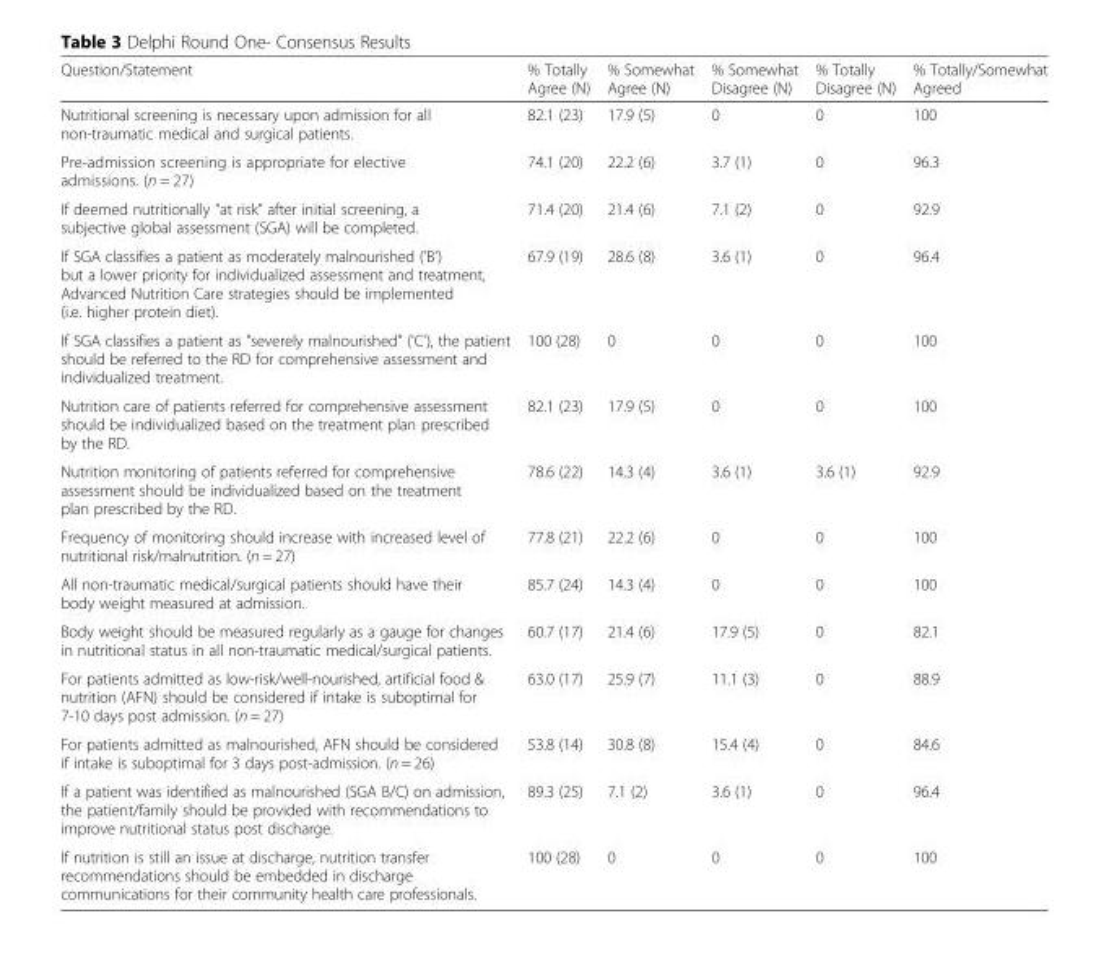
<table><thead><tr><td>Question/Statement</td><td>% Totally Agree (N)</td><td>% Somewhat Agree (N)</td><td>% Somewhat Disagree (N)</td><td>% Totally Disagree (N)</td><td>% Totally/Somewhat Agreed</td></tr></thead><tbody><tr><td>Nutritional screening is necessary upon admission for all non-traumatic medical and surgical patients.</td><td>82.1 (23)</td><td>17.9 (5)</td><td>0</td><td>0</td><td>100</td></tr><tr><td>Pre-admission screening is appropriate for elective admissions. (n = 27)</td><td>74.1 (20)</td><td>22.2 (6)</td><td>3.7 (1)</td><td>0</td><td>96.3</td></tr><tr><td>If deemed nutritionally “at risk” after initial screening, a subjective global assessment (SGA) will be completed.</td><td>71.4 (20)</td><td>21.4 (6)</td><td>7.1 (2)</td><td>0</td><td>92.9</td></tr><tr><td>If SGA classifies a patient as moderately malnourished (&#x27;B&#x27;) but a lower priority for individualized assessment and treatment, Advanced Nutrition Care strategies should be implemented (i.e. higher protein diet).</td><td>67.9 (19)</td><td>28.6 (8)</td><td>3.6 (1)</td><td>0</td><td>96.4</td></tr><tr><td>If SGA classifies a patient as &quot;severely malnourished&quot; (&#x27;C&#x27;), the patient should be referred to the RD for comprehensive assessment and individualized treatment.</td><td>100 (28)</td><td>0</td><td>0</td><td>0</td><td>100</td></tr><tr><td>Nutrition care of patients referred for comprehensive assessment should be individualized based on the treatment plan prescribed by the RD.</td><td>82.1 (23)</td><td>17.9 (5)</td><td>0</td><td>0</td><td>100</td></tr><tr><td>Nutrition monitoring of patients referred for comprehensive assessment should be individualized based on the treatment plan prescribed by the RD.</td><td>78.6 (22)</td><td>14.3 (4)</td><td>3.6 (1)</td><td>3.6 (1)</td><td>92.9</td></tr><tr><td>Frequency of monitoring should increase with increased level of nutritional risk/malnutrition. (n = 27)</td><td>77.8 (21)</td><td>22.2 (6)</td><td>0</td><td>0</td><td>100</td></tr><tr><td>All non-traumatic medical/surgical patients should have their body weight measured at admission.</td><td>85.7 (24)</td><td>14.3 (4)</td><td>0</td><td>0</td><td>100</td></tr><tr><td>Body weight should be measured regularly as a gauge for changes in nutritional status in all non-traumatic medical/surgical patients.</td><td>60.7 (17)</td><td>21.4 (6)</td><td>17.9 (5)</td><td>0</td><td>82.1</td></tr><tr><td>For patients admitted as low-risk/well-nourished, artificial food &amp; nutrition (AFN) should be considered if intake is suboptimal for 7-10 days post admission. (n = 27)</td><td>63.0 (17)</td><td>25.9 (7)</td><td>11.1 (3)</td><td>0</td><td>88.9</td></tr><tr><td>For patients admitted as malnourished, AFN should be considered if intake is suboptimal for 3 days post-admission. (n = 26)</td><td>53.8 (14)</td><td>30.8 (8)</td><td>15.4 (4)</td><td>0</td><td>84.6</td></tr><tr><td>If a patient was identified as malnourished (SGA B/C) on admission, the patient/family should be provided with recommendations to improve nutritional status post discharge.</td><td>89.3 (25)</td><td>7.1 (2)</td><td>3.6 (1)</td><td>0</td><td>96.4</td></tr><tr><td>If nutrition is still an issue at discharge, nutrition transfer recommendations should be embedded in discharge communications for their community health care professionals.</td><td>100 (28)</td><td>0</td><td>0</td><td>0</td><td>100</td></tr></tbody></table>